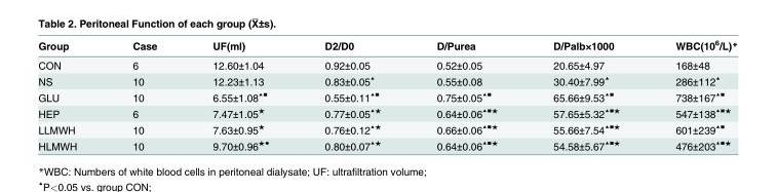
<table><thead><tr><td>Group</td><td>Case</td><td>UF(ml)</td><td>D2/D0</td><td>D/Purea</td><td>D/Palb×1000</td><td>WBC(10<sup>6</sup>/L)*</td></tr></thead><tbody><tr><td>CON</td><td>6</td><td>12.60±1.04</td><td>0.92±0.05</td><td>0.52±0.05</td><td>20.65±4.97</td><td>168±48</td></tr><tr><td>NS</td><td>10</td><td>12.23±1.13</td><td>0.83±0.05<sup>▲</sup></td><td>0.55±0.08</td><td>30.40±7.99<sup>▲</sup></td><td>286±112<sup>▲</sup></td></tr><tr><td>GLU</td><td>10</td><td>6.55±1.08<sup>▲■</sup></td><td>0.55±0.11<sup>▲■</sup></td><td>0.75±0.05<sup>▲■</sup></td><td>65.66±9.53<sup>▲■</sup></td><td>738±167<sup>▲■</sup></td></tr><tr><td>HEP</td><td>6</td><td>7.47±1.05<sup>★</sup></td><td>0.77±0.05<sup>▲★</sup></td><td>0.64±0.06<sup>▲■★</sup></td><td>57.65±5.32<sup>▲■★</sup></td><td>547±138<sup>▲■★</sup></td></tr><tr><td>LLMWH</td><td>10</td><td>7.63±0.95<sup>★</sup></td><td>0.76±0.12<sup>▲★</sup></td><td>0.66±0.06<sup>▲■★</sup></td><td>55.66±7.54<sup>▲■★</sup></td><td>601±239<sup>▲■</sup></td></tr><tr><td>HLMWH</td><td>10</td><td>9.70±0.96<sup>★●</sup></td><td>0.80±0.07<sup>▲★</sup></td><td>0.64±0.06<sup>▲■★</sup></td><td>54.58±5.67<sup>▲■★</sup></td><td>476±203<sup>▲■★</sup></td></tr></tbody></table>